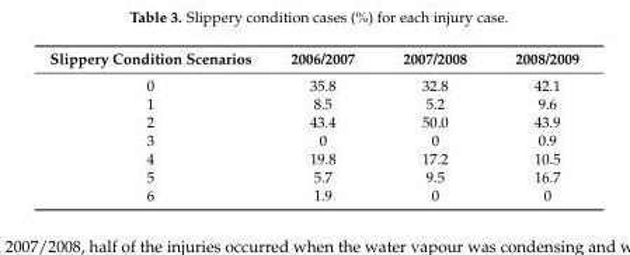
<table><thead><tr><td>Slippery Condition Scenarios</td><td>2006/2007</td><td>2007/2008</td><td>2008/2009</td></tr></thead><tbody><tr><td>0</td><td>35.8</td><td>32.8</td><td>42.1</td></tr><tr><td>1</td><td>8.5</td><td>5.2</td><td>9.6</td></tr><tr><td>2</td><td>43.4</td><td>50.0</td><td>43.9</td></tr><tr><td>3</td><td>0</td><td>0</td><td>0.9</td></tr><tr><td>4</td><td>19.8</td><td>17.2</td><td>10.5</td></tr><tr><td>5</td><td>5.7</td><td>9.5</td><td>16.7</td></tr><tr><td>6</td><td>1.9</td><td>0</td><td>0</td></tr></tbody></table>